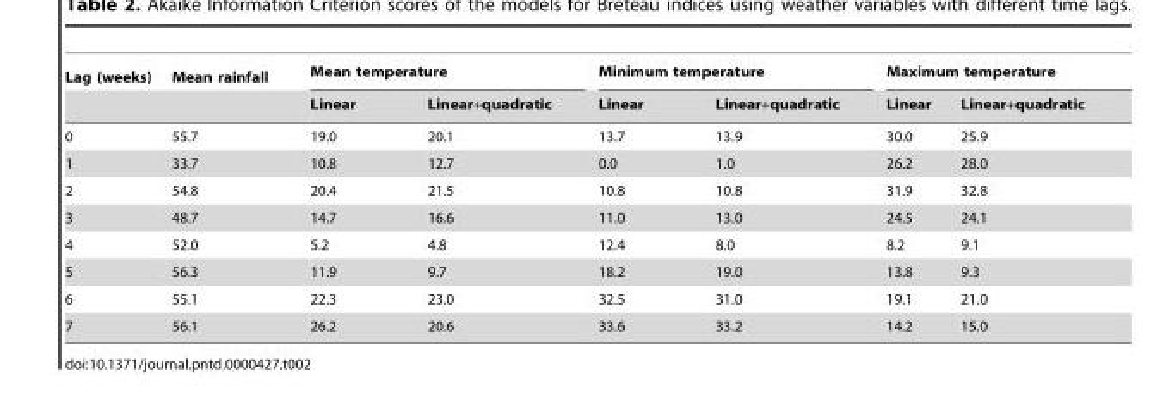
<table><thead><tr><td rowspan="2">Lag (weeks)</td><td rowspan="2">Mean rainfall</td><td colspan="2">Mean temperature</td><td colspan="2">Minimum temperature</td><td colspan="2">Maximum temperature</td></tr><tr><td>Linear</td><td>Linear+quadratic</td><td>Linear</td><td>Linear+quadratic</td><td>Linear</td><td>Linear+quadratic</td></tr></thead><tbody><tr><td>0</td><td>55.7</td><td>19.0</td><td>20.1</td><td>13.7</td><td>13.9</td><td>30.0</td><td>25.9</td></tr><tr><td>1</td><td>33.7</td><td>10.8</td><td>12.7</td><td>0.0</td><td>1.0</td><td>26.2</td><td>28.0</td></tr><tr><td>2</td><td>54.8</td><td>20.4</td><td>21.5</td><td>10.8</td><td>10.8</td><td>31.9</td><td>32.8</td></tr><tr><td>3</td><td>48.7</td><td>14.7</td><td>16.6</td><td>11.0</td><td>13.0</td><td>24.5</td><td>24.1</td></tr><tr><td>4</td><td>52.0</td><td>5.2</td><td>4.8</td><td>12.4</td><td>8.0</td><td>8.2</td><td>9.1</td></tr><tr><td>5</td><td>56.3</td><td>11.9</td><td>9.7</td><td>18.2</td><td>19.0</td><td>13.8</td><td>9.3</td></tr><tr><td>6</td><td>55.1</td><td>22.3</td><td>23.0</td><td>32.5</td><td>31.0</td><td>19.1</td><td>21.0</td></tr><tr><td>7</td><td>56.1</td><td>26.2</td><td>20.6</td><td>33.6</td><td>33.2</td><td>14.2</td><td>15.0</td></tr></tbody></table>